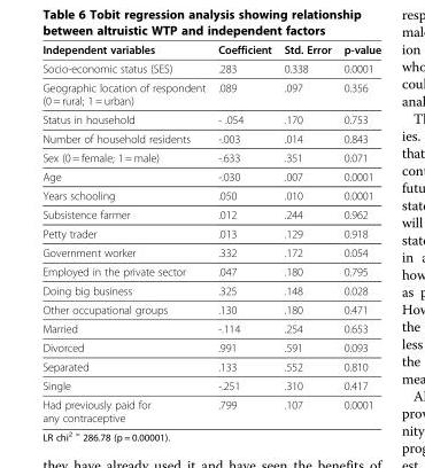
<table><thead><tr><td>Independent variables</td><td>Coefficient</td><td>Std. Error</td><td>p-value</td></tr></thead><tbody><tr><td>Socio-economic status (SES)</td><td>.283</td><td>0.338</td><td>0.0001</td></tr><tr><td>Geographic location of respondent (0 = rural; 1 = urban)</td><td>.089</td><td>.097</td><td>0.356</td></tr><tr><td>Status in household</td><td>- .054</td><td>.170</td><td>0.753</td></tr><tr><td>Number of household residents</td><td>-.003</td><td>.014</td><td>0.843</td></tr><tr><td>Sex (0 = female; 1 = male)</td><td>-.633</td><td>.351</td><td>0.071</td></tr><tr><td>Age</td><td>-.030</td><td>.007</td><td>0.0001</td></tr><tr><td>Years schooling</td><td>.050</td><td>.010</td><td>0.0001</td></tr><tr><td>Subsistence farmer</td><td>.012</td><td>.244</td><td>0.962</td></tr><tr><td>Petty trader</td><td>.013</td><td>.129</td><td>0.918</td></tr><tr><td>Government worker</td><td>.332</td><td>.172</td><td>0.054</td></tr><tr><td>Employed in the private sector</td><td>.047</td><td>.180</td><td>0.795</td></tr><tr><td>Doing big business</td><td>.325</td><td>.148</td><td>0.028</td></tr><tr><td>Other occupational groups</td><td>.130</td><td>.180</td><td>0.471</td></tr><tr><td>Married</td><td>-.114</td><td>.254</td><td>0.653</td></tr><tr><td>Divorced</td><td>.991</td><td>.591</td><td>0.093</td></tr><tr><td>Separated</td><td>.133</td><td>.552</td><td>0.810</td></tr><tr><td>Single</td><td>-.251</td><td>.310</td><td>0.417</td></tr><tr><td>Had previously paid for any contraceptive</td><td>.799</td><td>.107</td><td>0.0001</td></tr></tbody></table>